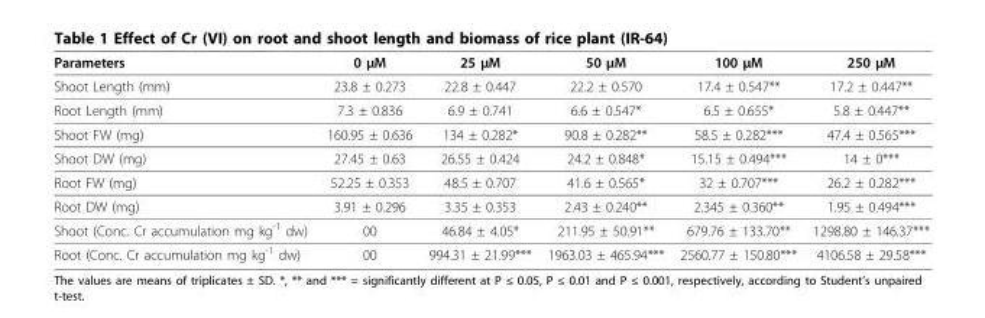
<table><thead><tr><td>Parameters</td><td>0 μM</td><td>25 μM</td><td>50 μM</td><td>100 μM</td><td>250 μM</td></tr></thead><tbody><tr><td>Shoot Length (mm)</td><td>23.8 ± 0.273</td><td>22.8 ± 0.447</td><td>22.2 ± 0.570</td><td>17.4 ± 0.547**</td><td>17.2 ± 0.447**</td></tr><tr><td>Root Length (mm)</td><td>7.3 ± 0.836</td><td>6.9 ± 0.741</td><td>6.6 ± 0.547*</td><td>6.5 ± 0.655*</td><td>5.8 ± 0.447**</td></tr><tr><td>Shoot FW (mg)</td><td>160.95 ± 0.636</td><td>134 ± 0.282*</td><td>90.8 ± 0.282**</td><td>58.5 ± 0.282***</td><td>47.4 ± 0.565***</td></tr><tr><td>Shoot DW (mg)</td><td>27.45 ± 0.63</td><td>26.55 ± 0.424</td><td>24.2 ± 0.848*</td><td>15.15 ± 0.494***</td><td>14 ± 0***</td></tr><tr><td>Root FW (mg)</td><td>52.25 ± 0.353</td><td>48.5 ± 0.707</td><td>41.6 ± 0.565*</td><td>32 ± 0.707***</td><td>26.2 ± 0.282***</td></tr><tr><td>Root DW (mg)</td><td>3.91 ± 0.296</td><td>3.35 ± 0.353</td><td>2.43 ± 0.240**</td><td>2.345 ± 0.360**</td><td>1.95 ± 0.494***</td></tr><tr><td>Shoot (Conc. Cr accumulation mg kg<sup>-1</sup> dw)</td><td>00</td><td>46.84 ± 4.05*</td><td>211.95 ± 50.91**</td><td>679.76 ± 133.70**</td><td>1298.80 ± 146.37***</td></tr><tr><td>Root (Conc. Cr accumulation mg kg<sup>-1</sup> dw)</td><td>00</td><td>994.31 ± 21.99***</td><td>1963.03 ± 465.94***</td><td>2560.77 ± 150.80***</td><td>4106.58 ± 29.58***</td></tr></tbody></table>